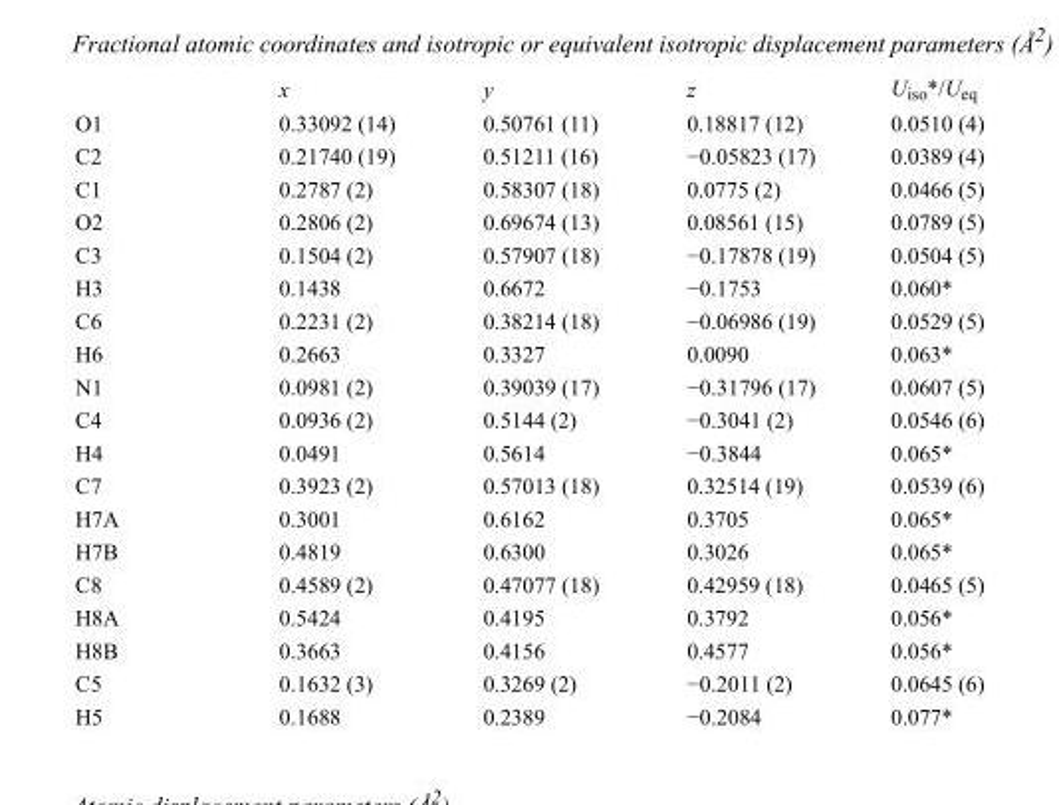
<table><thead><tr><td></td><td>x</td><td>y</td><td>z</td><td>U<sub>iso</sub>*/U<sub>eq</sub></td></tr></thead><tbody><tr><td>O1</td><td>0.33092 (14)</td><td>0.50761 (11)</td><td>0.18817 (12)</td><td>0.0510 (4)</td></tr><tr><td>C2</td><td>0.21740 (19)</td><td>0.51211 (16)</td><td>−0.05823 (17)</td><td>0.0389 (4)</td></tr><tr><td>C1</td><td>0.2787 (2)</td><td>0.58307 (18)</td><td>0.0775 (2)</td><td>0.0466 (5)</td></tr><tr><td>O2</td><td>0.2806 (2)</td><td>0.69674 (13)</td><td>0.08561 (15)</td><td>0.0789 (5)</td></tr><tr><td>C3</td><td>0.1504 (2)</td><td>0.57907 (18)</td><td>−0.17878 (19)</td><td>0.0504 (5)</td></tr><tr><td>H3</td><td>0.1438</td><td>0.6672</td><td>−0.1753</td><td>0.060*</td></tr><tr><td>C6</td><td>0.2231 (2)</td><td>0.38214 (18)</td><td>−0.06986 (19)</td><td>0.0529 (5)</td></tr><tr><td>H6</td><td>0.2663</td><td>0.3327</td><td>0.0090</td><td>0.063*</td></tr><tr><td>N1</td><td>0.0981 (2)</td><td>0.39039 (17)</td><td>−0.31796 (17)</td><td>0.0607 (5)</td></tr><tr><td>C4</td><td>0.0936 (2)</td><td>0.5144 (2)</td><td>−0.3041 (2)</td><td>0.0546 (6)</td></tr><tr><td>H4</td><td>0.0491</td><td>0.5614</td><td>−0.3844</td><td>0.065*</td></tr><tr><td>C7</td><td>0.3923 (2)</td><td>0.57013 (18)</td><td>0.32514 (19)</td><td>0.0539 (6)</td></tr><tr><td>H7A</td><td>0.3001</td><td>0.6162</td><td>0.3705</td><td>0.065*</td></tr><tr><td>H7B</td><td>0.4819</td><td>0.6300</td><td>0.3026</td><td>0.065*</td></tr><tr><td>C8</td><td>0.4589 (2)</td><td>0.47077 (18)</td><td>0.42959 (18)</td><td>0.0465 (5)</td></tr><tr><td>H8A</td><td>0.5424</td><td>0.4195</td><td>0.3792</td><td>0.056*</td></tr><tr><td>H8B</td><td>0.3663</td><td>0.4156</td><td>0.4577</td><td>0.056*</td></tr><tr><td>C5</td><td>0.1632 (3)</td><td>0.3269 (2)</td><td>−0.2011 (2)</td><td>0.0645 (6)</td></tr><tr><td>H5</td><td>0.1688</td><td>0.2389</td><td>−0.2084</td><td>0.077*</td></tr></tbody></table>